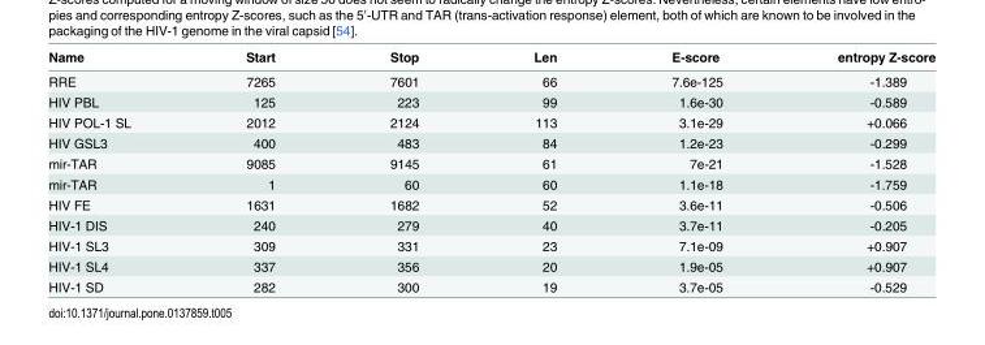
<table><thead><tr><td>Name</td><td>Start</td><td>Stop</td><td>Len</td><td>E-score</td><td>entropy Z-score</td></tr></thead><tbody><tr><td>RRE</td><td>7265</td><td>7601</td><td>66</td><td>7.6e-125</td><td>-1.389</td></tr><tr><td>HIV PBL</td><td>125</td><td>223</td><td>99</td><td>1.6e-30</td><td>-0.589</td></tr><tr><td>HIV POL-1 SL</td><td>2012</td><td>2124</td><td>113</td><td>3.1e-29</td><td>+0.066</td></tr><tr><td>HIV GSL3</td><td>400</td><td>483</td><td>84</td><td>1.2e-23</td><td>-0.299</td></tr><tr><td>mir-TAR</td><td>9085</td><td>9145</td><td>61</td><td>7e-21</td><td>-1.528</td></tr><tr><td>mir-TAR</td><td>1</td><td>60</td><td>60</td><td>1.1e-18</td><td>-1.759</td></tr><tr><td>HIV FE</td><td>1631</td><td>1682</td><td>52</td><td>3.6e-11</td><td>-0.506</td></tr><tr><td>HIV-1 DIS</td><td>240</td><td>279</td><td>40</td><td>3.7e-11</td><td>-0.205</td></tr><tr><td>HIV-1 SL3</td><td>309</td><td>331</td><td>23</td><td>7.1e-09</td><td>+0.907</td></tr><tr><td>HIV-1 SL4</td><td>337</td><td>356</td><td>20</td><td>1.9e-05</td><td>+0.907</td></tr><tr><td>HIV-1 SD</td><td>282</td><td>300</td><td>19</td><td>3.7e-05</td><td>-0.529</td></tr></tbody></table>